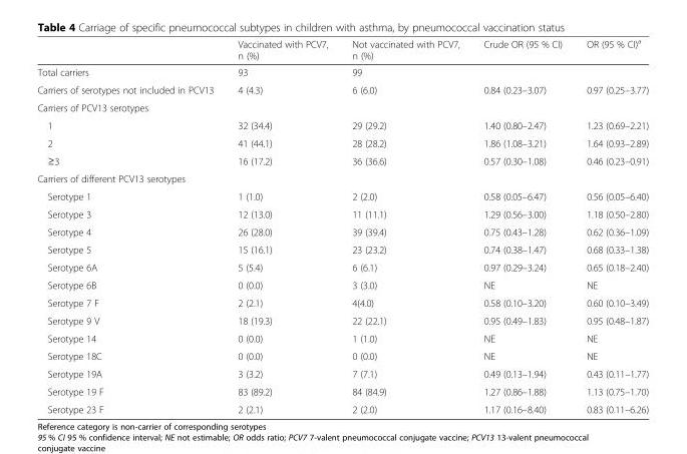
<table><thead><tr><td></td><td>Vaccinated with PCV7, n (%)</td><td>Not vaccinated with PCV7, n (%)</td><td>Crude OR (95 % CI)</td><td>OR (95 % CI)<sup>a</sup></td></tr></thead><tbody><tr><td>Total carriers</td><td>93</td><td>99</td><td></td><td></td></tr><tr><td>Carriers of serotypes not included in PCV13</td><td>4 (4.3)</td><td>6 (6.0)</td><td>0.84 (0.23–3.07)</td><td>0.97 (0.25–3.77)</td></tr><tr><td colspan="5">Carriers of PCV13 serotypes</td></tr><tr><td>1</td><td>32 (34.4)</td><td>29 (29.2)</td><td>1.40 (0.80–2.47)</td><td>1.23 (0.69–2.21)</td></tr><tr><td>2</td><td>41 (44.1)</td><td>28 (28.2)</td><td>1.86 (1.08–3.21)</td><td>1.64 (0.93–2.89)</td></tr><tr><td>≥3</td><td>16 (17.2)</td><td>36 (36.6)</td><td>0.57 (0.30–1.08)</td><td>0.46 (0.23–0.91)</td></tr><tr><td colspan="5">Carriers of different PCV13 serotypes</td></tr><tr><td>Serotype 1</td><td>1 (1.0)</td><td>2 (2.0)</td><td>0.58 (0.05–6.47)</td><td>0.56 (0.05–6.40)</td></tr><tr><td>Serotype 3</td><td>12 (13.0)</td><td>11 (11.1)</td><td>1.29 (0.56–3.00)</td><td>1.18 (0.50–2.80)</td></tr><tr><td>Serotype 4</td><td>26 (28.0)</td><td>39 (39.4)</td><td>0.75 (0.43–1.28)</td><td>0.62 (0.36–1.09)</td></tr><tr><td>Serotype 5</td><td>15 (16.1)</td><td>23 (23.2)</td><td>0.74 (0.38–1.47)</td><td>0.68 (0.33–1.38)</td></tr><tr><td>Serotype 6A</td><td>5 (5.4)</td><td>6 (6.1)</td><td>0.97 (0.29–3.24)</td><td>0.65 (0.18–2.40)</td></tr><tr><td>Serotype 6B</td><td>0 (0.0)</td><td>3 (3.0)</td><td>NE</td><td>NE</td></tr><tr><td>Serotype 7 F</td><td>2 (2.1)</td><td>4(4.0)</td><td>0.58 (0.10–3.20)</td><td>0.60 (0.10–3.49)</td></tr><tr><td>Serotype 9 V</td><td>18 (19.3)</td><td>22 (22.1)</td><td>0.95 (0.49–1.83)</td><td>0.95 (0.48–1.87)</td></tr><tr><td>Serotype 14</td><td>0 (0.0)</td><td>1 (1.0)</td><td>NE</td><td>NE</td></tr><tr><td>Serotype 18C</td><td>0 (0.0)</td><td>0 (0.0)</td><td>NE</td><td>NE</td></tr><tr><td>Serotype 19A</td><td>3 (3.2)</td><td>7 (7.1)</td><td>0.49 (0.13–1.94)</td><td>0.43 (0.11–1.77)</td></tr><tr><td>Serotype 19 F</td><td>83 (89.2)</td><td>84 (84.9)</td><td>1.27 (0.86–1.88)</td><td>1.13 (0.75–1.70)</td></tr><tr><td>Serotype 23 F</td><td>2 (2.1)</td><td>2 (2.0)</td><td>1.17 (0.16–8.40)</td><td>0.83 (0.11–6.26)</td></tr></tbody></table>